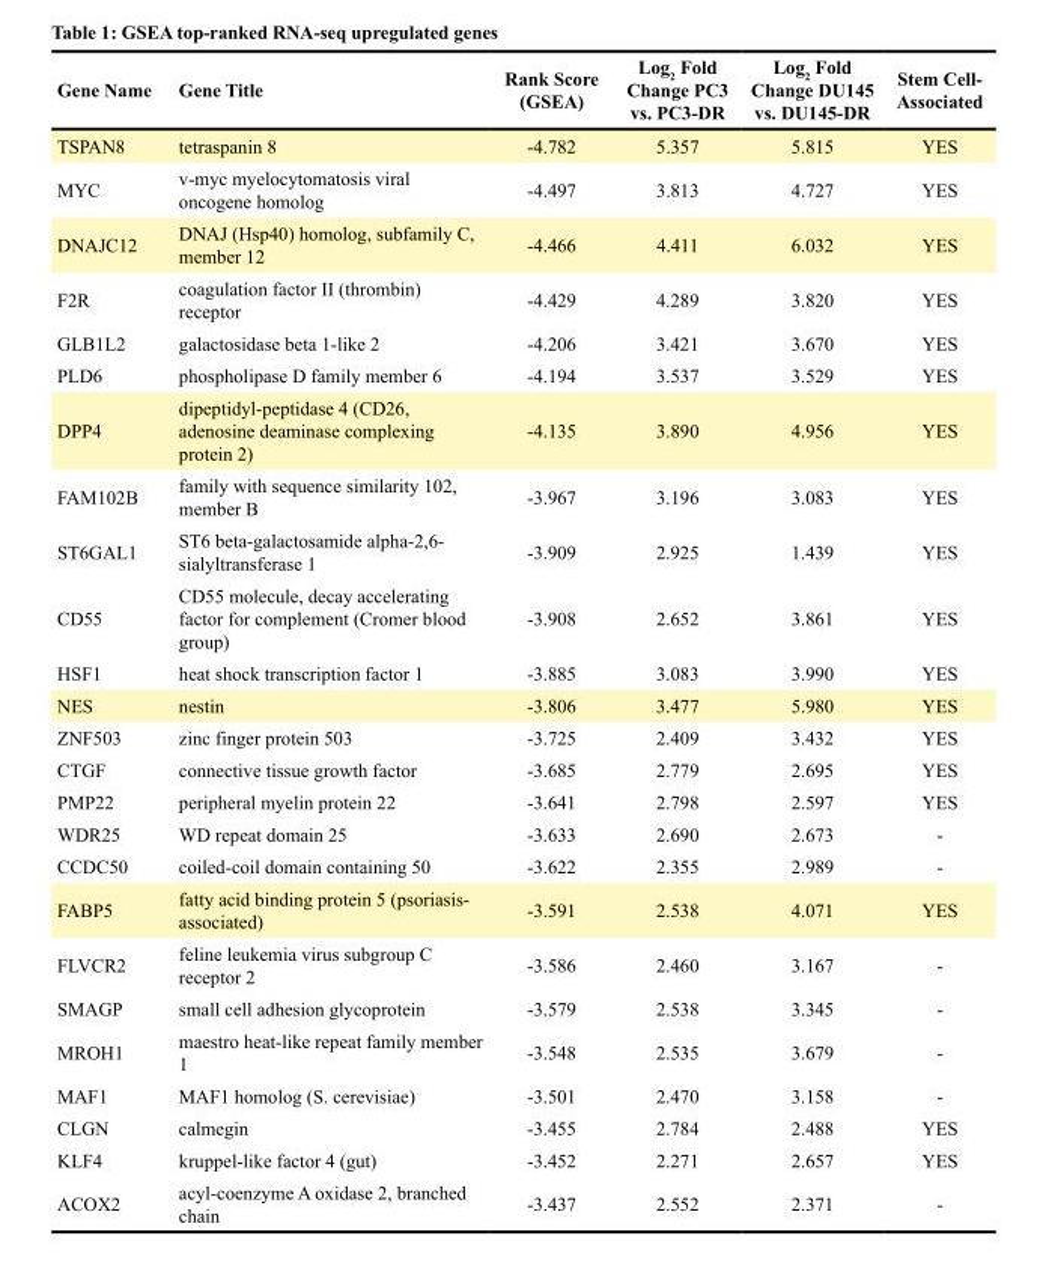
<table><thead><tr><td>Gene Name</td><td>Gene Title</td><td>Rank Score (GSEA)</td><td>Log<sub>2</sub> Fold Change PC3 vs. PC3-DR</td><td>Log<sub>2</sub> Fold Change DU145 vs. DU145-DR</td><td>Stem Cell- Associated</td></tr></thead><tbody><tr><td>TSPAN8</td><td>tetraspanin 8</td><td>-4.782</td><td>5.357</td><td>5.815</td><td>YES</td></tr><tr><td>MYC</td><td>v-myc myelocytomatosis viral oncogene homolog</td><td>-4.497</td><td>3.813</td><td>4.727</td><td>YES</td></tr><tr><td>DNAJC12</td><td>DNAJ (Hsp40) homolog, subfamily C, member 12</td><td>-4.466</td><td>4.411</td><td>6.032</td><td>YES</td></tr><tr><td>F2R</td><td>coagulation factor II (thrombin) receptor</td><td>-4.429</td><td>4.289</td><td>3.820</td><td>YES</td></tr><tr><td>GLB1L2</td><td>galactosidase beta 1-like 2</td><td>-4.206</td><td>3.421</td><td>3.670</td><td>YES</td></tr><tr><td>PLD6</td><td>phospholipase D family member 6</td><td>-4.194</td><td>3.537</td><td>3.529</td><td>YES</td></tr><tr><td>DPP4</td><td>dipeptidyl-peptidase 4 (CD26, adenosine deaminase complexing protein 2)</td><td>-4.135</td><td>3.890</td><td>4.956</td><td>YES</td></tr><tr><td>FAM102B</td><td>family with sequence similarity 102, member B</td><td>-3.967</td><td>3.196</td><td>3.083</td><td>YES</td></tr><tr><td>ST6GAL1</td><td>ST6 beta-galactosamide alpha-2,6- sialyltransferase 1</td><td>-3.909</td><td>2.925</td><td>1.439</td><td>YES</td></tr><tr><td>CD55</td><td>CD55 molecule, decay accelerating factor for complement (Cromer blood group)</td><td>-3.908</td><td>2.652</td><td>3.861</td><td>YES</td></tr><tr><td>HSF1</td><td>heat shock transcription factor 1</td><td>-3.885</td><td>3.083</td><td>3.990</td><td>YES</td></tr><tr><td>NES</td><td>nestin</td><td>-3.806</td><td>3.477</td><td>5.980</td><td>YES</td></tr><tr><td>ZNF503</td><td>zinc finger protein 503</td><td>-3.725</td><td>2.409</td><td>3.432</td><td>YES</td></tr><tr><td>CTGF</td><td>connective tissue growth factor</td><td>-3.685</td><td>2.779</td><td>2.695</td><td>YES</td></tr><tr><td>PMP22</td><td>peripheral myelin protein 22</td><td>-3.641</td><td>2.798</td><td>2.597</td><td>YES</td></tr><tr><td>WDR25</td><td>WD repeat domain 25</td><td>-3.633</td><td>2.690</td><td>2.673</td><td>-</td></tr><tr><td>CCDC50</td><td>coiled-coil domain containing 50</td><td>-3.622</td><td>2.355</td><td>2.989</td><td>-</td></tr><tr><td>FABP5</td><td>fatty acid binding protein 5 (psoriasis- associated)</td><td>-3.591</td><td>2.538</td><td>4.071</td><td>YES</td></tr><tr><td>FLVCR2</td><td>feline leukemia virus subgroup C receptor 2</td><td>-3.586</td><td>2.460</td><td>3.167</td><td>-</td></tr><tr><td>SMAGP</td><td>small cell adhesion glycoprotein</td><td>-3.579</td><td>2.538</td><td>3.345</td><td>-</td></tr><tr><td>MROH1</td><td>maestro heat-like repeat family member 1</td><td>-3.548</td><td>2.535</td><td>3.679</td><td>-</td></tr><tr><td>MAF1</td><td>MAF1 homolog (S. cerevisiae)</td><td>-3.501</td><td>2.470</td><td>3.158</td><td>-</td></tr><tr><td>CLGN</td><td>calmegin</td><td>-3.455</td><td>2.784</td><td>2.488</td><td>YES</td></tr><tr><td>KLF4</td><td>kruppel-like factor 4 (gut)</td><td>-3.452</td><td>2.271</td><td>2.657</td><td>YES</td></tr><tr><td>ACOX2</td><td>acyl-coenzyme A oxidase 2, branched chain</td><td>-3.437</td><td>2.552</td><td>2.371</td><td>-</td></tr></tbody></table>